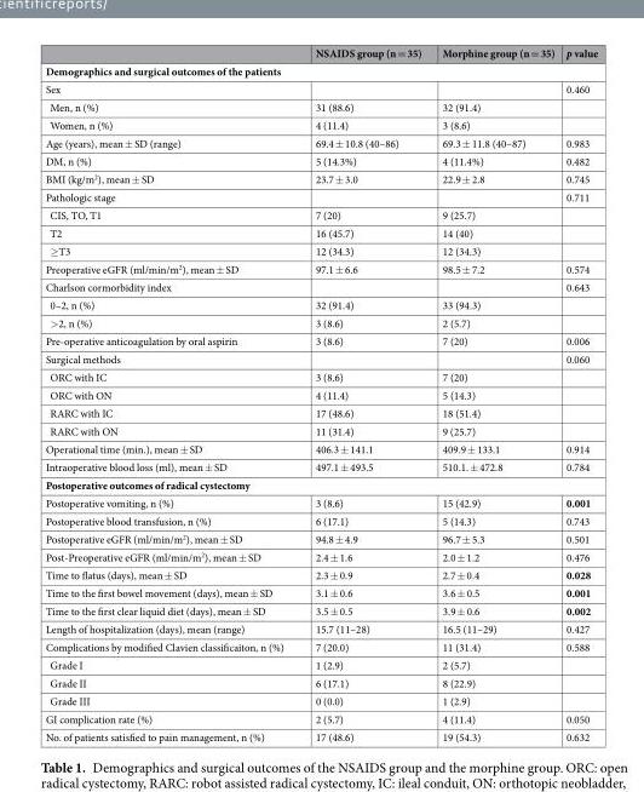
<table><thead><tr><td></td><td>NSAIDS group (n = 35)</td><td>Morphine group (n = 35)</td><td>p value</td></tr></thead><tbody><tr><td colspan="4">Demographics and surgical outcomes of the patients</td></tr><tr><td>Sex</td><td></td><td></td><td>0.460</td></tr><tr><td>Men, n (%)</td><td>31 (88.6)</td><td>32 (91.4)</td><td></td></tr><tr><td>Women, n (%)</td><td>4 (11.4)</td><td>3 (8.6)</td><td></td></tr><tr><td>Age (years), mean ± SD (range)</td><td>69.4 ± 10.8 (40–86)</td><td>69.3 ± 11.8 (40–87)</td><td>0.983</td></tr><tr><td>DM, n (%)</td><td>5 (14.3%)</td><td>4 (11.4%)</td><td>0.482</td></tr><tr><td>BMI (kg/m<sup>2</sup>), mean ± SD</td><td>23.7 ± 3.0</td><td>22.9 ± 2.8</td><td>0.745</td></tr><tr><td>Pathologic stage</td><td></td><td></td><td>0.711</td></tr><tr><td>CIS, TO, T1</td><td>7 (20)</td><td>9 (25.7)</td><td></td></tr><tr><td>T2</td><td>16 (45.7)</td><td>14 (40)</td><td></td></tr><tr><td>≥T3</td><td>12 (34.3)</td><td>12 (34.3)</td><td></td></tr><tr><td>Preoperative eGFR (ml/min/m<sup>2</sup>), mean ± SD</td><td>97.1 ± 6.6</td><td>98.5 ± 7.2</td><td>0.574</td></tr><tr><td>Charlson cormorbidity index</td><td></td><td></td><td>0.643</td></tr><tr><td>0–2, n (%)</td><td>32 (91.4)</td><td>33 (94.3)</td><td></td></tr><tr><td>&gt;2, n (%)</td><td>3 (8.6)</td><td>2 (5.7)</td><td></td></tr><tr><td>Pre-operative anticoagulation by oral aspirin</td><td>3 (8.6)</td><td>7 (20)</td><td>0.006</td></tr><tr><td>Surgical methods</td><td></td><td></td><td>0.060</td></tr><tr><td>ORC with IC</td><td>3 (8.6)</td><td>7 (20)</td><td></td></tr><tr><td>ORC with ON</td><td>4 (11.4)</td><td>5 (14.3)</td><td></td></tr><tr><td>RARC with IC</td><td>17 (48.6)</td><td>18 (51.4)</td><td></td></tr><tr><td>RARC with ON</td><td>11 (31.4)</td><td>9 (25.7)</td><td></td></tr><tr><td>Operational time (min.), mean ± SD</td><td>406.3 ± 141.1</td><td>409.9 ± 133.1</td><td>0.914</td></tr><tr><td>Intraoperative blood loss (ml), mean ± SD</td><td>497.1 ± 493.5</td><td>510.1. ± 472.8</td><td>0.784</td></tr><tr><td colspan="4">Postoperative outcomes of radical cystectomy</td></tr><tr><td>Postoperative vomiting, n (%)</td><td>3 (8.6)</td><td>15 (42.9)</td><td>0.001</td></tr><tr><td>Postoperative blood transfusion, n (%)</td><td>6 (17.1)</td><td>5 (14.3)</td><td>0.743</td></tr><tr><td>Postoperative eGFR (ml/min/m<sup>2</sup>), mean ± SD</td><td>94.8 ± 4.9</td><td>96.7 ± 5.3</td><td>0.501</td></tr><tr><td>Post-Preoperative eGFR (ml/min/m<sup>2</sup>), mean ± SD</td><td>2.4 ± 1.6</td><td>2.0 ± 1.2</td><td>0.476</td></tr><tr><td>Time to flatus (days), mean ± SD</td><td>2.3 ± 0.9</td><td>2.7 ± 0.4</td><td>0.028</td></tr><tr><td>Time to the first bowel movement (days), mean ± SD</td><td>3.1 ± 0.6</td><td>3.6 ± 0.5</td><td>0.001</td></tr><tr><td>Time to the first clear liquid diet (days), mean ± SD</td><td>3.5 ± 0.5</td><td>3.9 ± 0.6</td><td>0.002</td></tr><tr><td>Length of hospitalization (days), mean (range)</td><td>15.7 (11–28)</td><td>16.5 (11–29)</td><td>0.427</td></tr><tr><td>Complications by modified Clavien classificaiton, n (%)</td><td>7 (20.0)</td><td>11 (31.4)</td><td>0.588</td></tr><tr><td>Grade I</td><td>1 (2.9)</td><td>2 (5.7)</td><td></td></tr><tr><td>Grade II</td><td>6 (17.1)</td><td>8 (22.9)</td><td></td></tr><tr><td>Grade III</td><td>0 (0.0)</td><td>1 (2.9)</td><td></td></tr><tr><td>GI complication rate (%)</td><td>2 (5.7)</td><td>4 (11.4)</td><td>0.050</td></tr><tr><td>No. of patients satisfied to pain management, n (%)</td><td>17 (48.6)</td><td>19 (54.3)</td><td>0.632</td></tr></tbody></table>